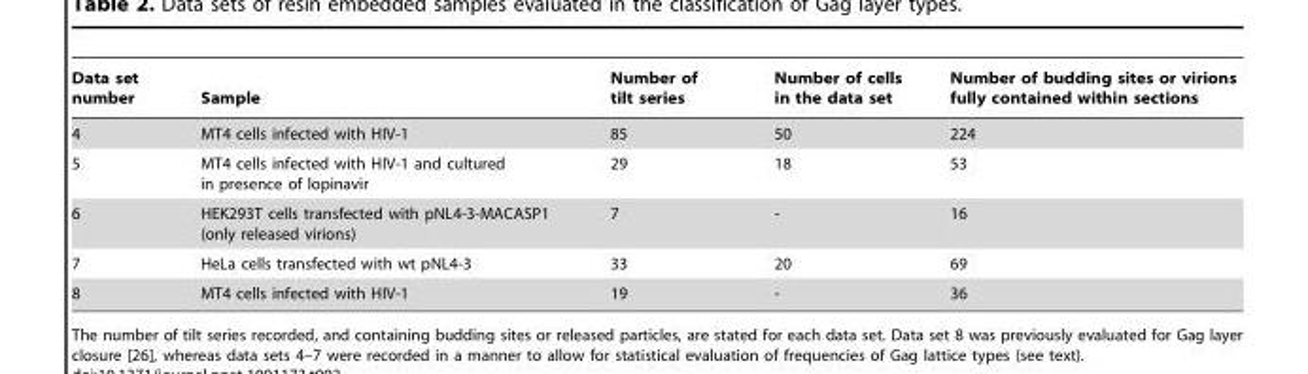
<table><thead><tr><td>Data set number</td><td>Sample</td><td>Number of tilt series</td><td>Number of cells in the data set</td><td>Number of budding sites or virions fully contained within sections</td></tr></thead><tbody><tr><td>4</td><td>MT4 cells infected with HIV-1</td><td>85</td><td>50</td><td>224</td></tr><tr><td>5</td><td>MT4 cells infected with HIV-1 and cultured in presence of lopinavir</td><td>29</td><td>18</td><td>53</td></tr><tr><td>6</td><td>HEK293T cells transfected with pNL4-3-MACASP1 (only released virions)</td><td>7</td><td>-</td><td>16</td></tr><tr><td>7</td><td>HeLa cells transfected with wt pNL4-3</td><td>33</td><td>20</td><td>69</td></tr><tr><td>8</td><td>MT4 cells infected with HIV-1</td><td>19</td><td>-</td><td>36</td></tr></tbody></table>